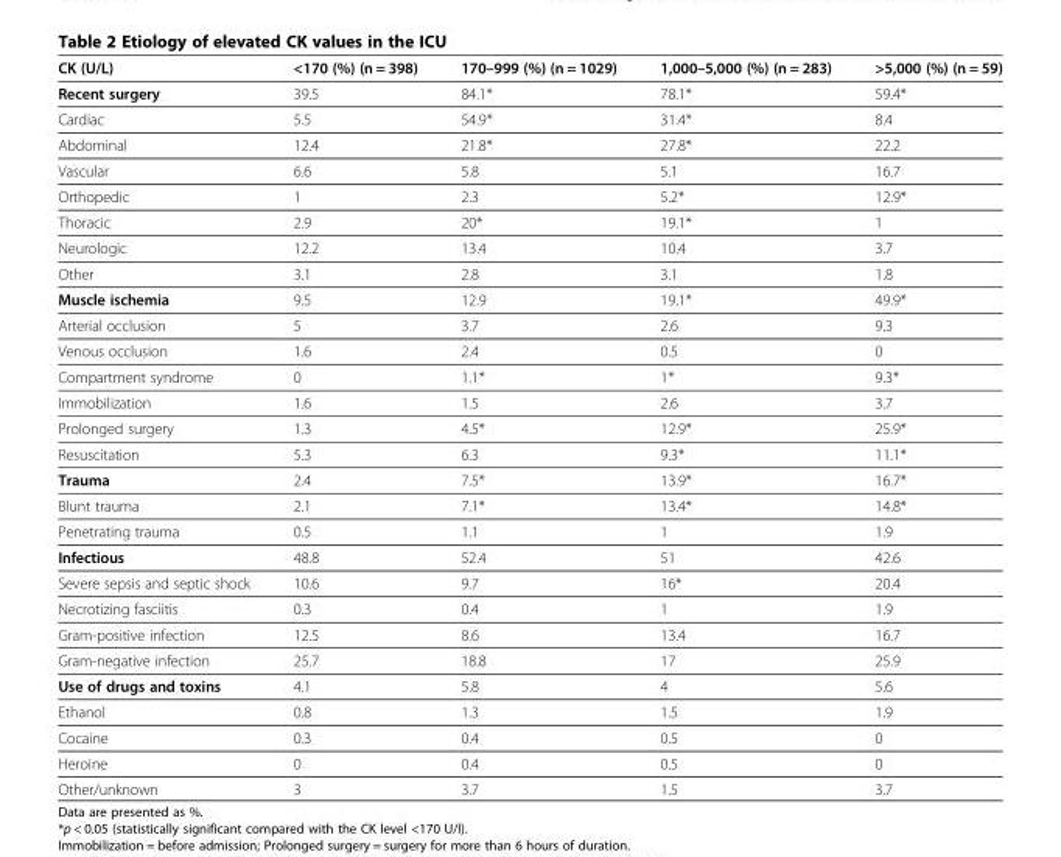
<table><thead><tr><td>CK (U/L)</td><td>&lt;170 (%) (n = 398)</td><td>170–999 (%) (n = 1029)</td><td>1,000–5,000 (%) (n = 283)</td><td>&gt;5,000 (%) (n = 59)</td></tr></thead><tbody><tr><td>Recent surgery</td><td>39.5</td><td>84.1*</td><td>78.1*</td><td>59.4*</td></tr><tr><td>Cardiac</td><td>5.5</td><td>54.9*</td><td>31.4*</td><td>8.4</td></tr><tr><td>Abdominal</td><td>12.4</td><td>21.8*</td><td>27.8*</td><td>22.2</td></tr><tr><td>Vascular</td><td>6.6</td><td>5.8</td><td>5.1</td><td>16.7</td></tr><tr><td>Orthopedic</td><td>1</td><td>2.3</td><td>5.2*</td><td>12.9*</td></tr><tr><td>Thoracic</td><td>2.9</td><td>20*</td><td>19.1*</td><td>1</td></tr><tr><td>Neurologic</td><td>12.2</td><td>13.4</td><td>10.4</td><td>3.7</td></tr><tr><td>Other</td><td>3.1</td><td>2.8</td><td>3.1</td><td>1.8</td></tr><tr><td>Muscle ischemia</td><td>9.5</td><td>12.9</td><td>19.1*</td><td>49.9*</td></tr><tr><td>Arterial occlusion</td><td>5</td><td>3.7</td><td>2.6</td><td>9.3</td></tr><tr><td>Venous occlusion</td><td>1.6</td><td>2.4</td><td>0.5</td><td>0</td></tr><tr><td>Compartment syndrome</td><td>0</td><td>1.1*</td><td>1*</td><td>9.3*</td></tr><tr><td>Immobilization</td><td>1.6</td><td>1.5</td><td>2.6</td><td>3.7</td></tr><tr><td>Prolonged surgery</td><td>1.3</td><td>4.5*</td><td>12.9*</td><td>25.9*</td></tr><tr><td>Resuscitation</td><td>5.3</td><td>6.3</td><td>9.3*</td><td>11.1*</td></tr><tr><td>Trauma</td><td>2.4</td><td>7.5*</td><td>13.9*</td><td>16.7*</td></tr><tr><td>Blunt trauma</td><td>2.1</td><td>7.1*</td><td>13.4*</td><td>14.8*</td></tr><tr><td>Penetrating trauma</td><td>0.5</td><td>1.1</td><td>1</td><td>1.9</td></tr><tr><td>Infectious</td><td>48.8</td><td>52.4</td><td>51</td><td>42.6</td></tr><tr><td>Severe sepsis and septic shock</td><td>10.6</td><td>9.7</td><td>16*</td><td>20.4</td></tr><tr><td>Necrotizing fasciitis</td><td>0.3</td><td>0.4</td><td>1</td><td>1.9</td></tr><tr><td>Gram-positive infection</td><td>12.5</td><td>8.6</td><td>13.4</td><td>16.7</td></tr><tr><td>Gram-negative infection</td><td>25.7</td><td>18.8</td><td>17</td><td>25.9</td></tr><tr><td>Use of drugs and toxins</td><td>4.1</td><td>5.8</td><td>4</td><td>5.6</td></tr><tr><td>Ethanol</td><td>0.8</td><td>1.3</td><td>1.5</td><td>1.9</td></tr><tr><td>Cocaine</td><td>0.3</td><td>0.4</td><td>0.5</td><td>0</td></tr><tr><td>Heroine</td><td>0</td><td>0.4</td><td>0.5</td><td>0</td></tr><tr><td>Other/unknown</td><td>3</td><td>3.7</td><td>1.5</td><td>3.7</td></tr></tbody></table>